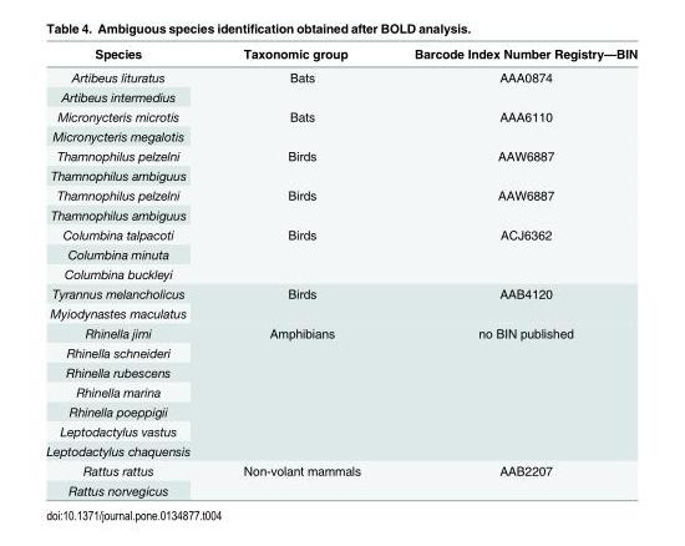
<table><thead><tr><td>Species</td><td>Taxonomic group</td><td>Barcode Index Number Registry—BIN</td></tr></thead><tbody><tr><td>Artibeus lituratus</td><td rowspan="2">Bats</td><td rowspan="2">AAA0874</td></tr><tr><td>Artibeus intermedius</td></tr><tr><td>Micronycteris microtis</td><td rowspan="2">Bats</td><td rowspan="2">AAA6110</td></tr><tr><td>Micronycteris megalotis</td></tr><tr><td>Thamnophilus pelzelni</td><td rowspan="2">Birds</td><td rowspan="2">AAW6887</td></tr><tr><td>Thamnophilus ambiguus</td></tr><tr><td>Thamnophilus pelzelni</td><td rowspan="2">Birds</td><td rowspan="2">AAW6887</td></tr><tr><td>Thamnophilus ambiguus</td></tr><tr><td>Columbina talpacoti</td><td rowspan="3">Birds</td><td rowspan="3">ACJ6362</td></tr><tr><td>Columbina minuta</td></tr><tr><td>Columbina buckleyi</td></tr><tr><td>Tyrannus melancholicus</td><td rowspan="2">Birds</td><td rowspan="2">AAB4120</td></tr><tr><td>Myiodynastes maculatus</td></tr><tr><td>Rhinella jimi</td><td rowspan="7">Amphibians</td><td rowspan="7">no BIN published</td></tr><tr><td>Rhinella schneideri</td></tr><tr><td>Rhinella rubescens</td></tr><tr><td>Rhinella marina</td></tr><tr><td>Rhinella poeppigii</td></tr><tr><td>Leptodactylus vastus</td></tr><tr><td>Leptodactylus chaquensis</td></tr><tr><td>Rattus rattus</td><td rowspan="2">Non-volant mammals</td><td rowspan="2">AAB2207</td></tr><tr><td>Rattus norvegicus</td></tr></tbody></table>